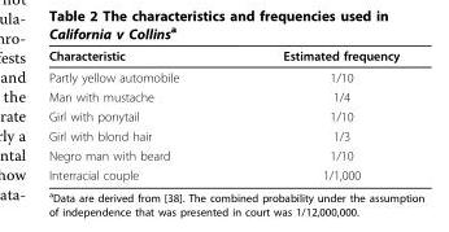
<table><thead><tr><td>Characteristic</td><td>Estimated frequency</td></tr></thead><tbody><tr><td>Partly yellow automobile</td><td>1/10</td></tr><tr><td>Man with mustache</td><td>1/4</td></tr><tr><td>Girl with ponytail</td><td>1/10</td></tr><tr><td>Girl with blond hair</td><td>1/3</td></tr><tr><td>Negro man with beard</td><td>1/10</td></tr><tr><td>Interracial couple</td><td>1/1,000</td></tr></tbody></table>